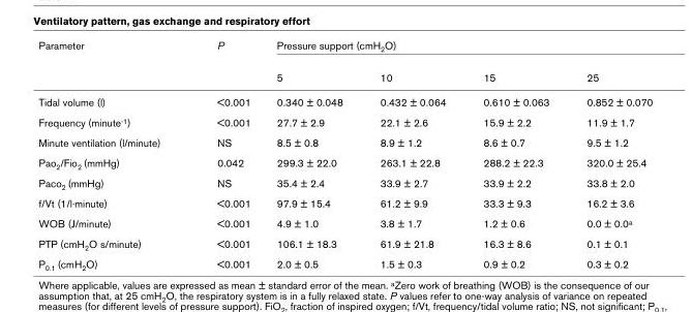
<table><thead><tr><td rowspan="2">Parameter</td><td rowspan="2">P</td><td colspan="4">Pressure support (cmH2O)</td></tr><tr><td>5</td><td>10</td><td>15</td><td>25</td></tr></thead><tbody><tr><td>Tidal volume (l)</td><td>&lt;0.001</td><td>0.340 ± 0.048</td><td>0.432 ± 0.064</td><td>0.610 ± 0.063</td><td>0.852 ± 0.070</td></tr><tr><td>Frequency (minute-1)</td><td>&lt;0.001</td><td>27.7 ± 2.9</td><td>22.1 ± 2.6</td><td>15.9 ± 2.2</td><td>11.9 ± 1.7</td></tr><tr><td>Minute ventilation (l/minute)</td><td>NS</td><td>8.5 ± 0.8</td><td>8.9 ± 1.2</td><td>8.6 ± 0.7</td><td>9.5 ± 1.2</td></tr><tr><td>Pao2/Fio2 (mmHg)</td><td>0.042</td><td>299.3 ± 22.0</td><td>263.1 ± 22.8</td><td>288.2 ± 22.3</td><td>320.0 ± 25.4</td></tr><tr><td>Paco2 (mmHg)</td><td>NS</td><td>35.4 ± 2.4</td><td>33.9 ± 2.7</td><td>33.9 ± 2.2</td><td>33.8 ± 2.0</td></tr><tr><td>f/Vt (1/l·minute)</td><td>&lt;0.001</td><td>97.9 ± 15.4</td><td>61.2 ± 9.9</td><td>33.3 ± 9.3</td><td>16.2 ± 3.6</td></tr><tr><td>WOB (J/minute)</td><td>&lt;0.001</td><td>4.9 ± 1.0</td><td>3.8 ± 1.7</td><td>1.2 ± 0.6</td><td>0.0 ± 0.0a</td></tr><tr><td>PTP (cmH2O s/minute)</td><td>&lt;0.001</td><td>106.1 ± 18.3</td><td>61.9 ± 21.8</td><td>16.3 ± 8.6</td><td>0.1 ± 0.1</td></tr><tr><td>P0.1 (cmH2O)</td><td>&lt;0.001</td><td>2.0 ± 0.5</td><td>1.5 ± 0.3</td><td>0.9 ± 0.2</td><td>0.3 ± 0.2</td></tr></tbody></table>